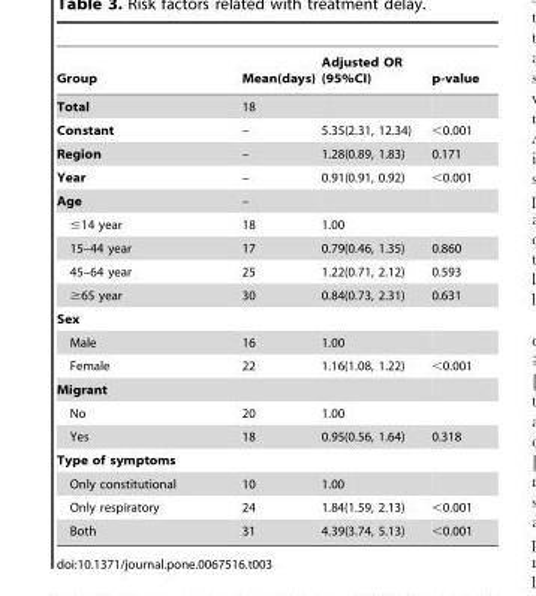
<table><thead><tr><td>Group</td><td>Mean(days)</td><td>Adjusted OR (95%CI)</td><td>p-value</td></tr></thead><tbody><tr><td>Total</td><td>18</td><td></td><td></td></tr><tr><td>Constant</td><td>–</td><td>5.35(2.31, 12.34)</td><td>&lt;0.001</td></tr><tr><td>Region</td><td>–</td><td>1.28(0.89, 1.83)</td><td>0.171</td></tr><tr><td>Year</td><td>–</td><td>0.91(0.91, 0.92)</td><td>&lt;0.001</td></tr><tr><td>Age</td><td>–</td><td></td><td></td></tr><tr><td>≤14 year</td><td>18</td><td>1.00</td><td></td></tr><tr><td>15–44 year</td><td>17</td><td>0.79(0.46, 1.35)</td><td>0.860</td></tr><tr><td>45–64 year</td><td>25</td><td>1.22(0.71, 2.12)</td><td>0.593</td></tr><tr><td>≥65 year</td><td>30</td><td>0.84(0.73, 2.31)</td><td>0.631</td></tr><tr><td colspan="4">Sex</td></tr><tr><td>Male</td><td>16</td><td>1.00</td><td></td></tr><tr><td>Female</td><td>22</td><td>1.16(1.08, 1.22)</td><td>&lt;0.001</td></tr><tr><td colspan="4">Migrant</td></tr><tr><td>No</td><td>20</td><td>1.00</td><td></td></tr><tr><td>Yes</td><td>18</td><td>0.95(0.56, 1.64)</td><td>0.318</td></tr><tr><td colspan="4">Type of symptoms</td></tr><tr><td>Only constitutional</td><td>10</td><td>1.00</td><td></td></tr><tr><td>Only respiratory</td><td>24</td><td>1.84(1.59, 2.13)</td><td>&lt;0.001</td></tr><tr><td>Both</td><td>31</td><td>4.39(3.74, 5.13)</td><td>&lt;0.001</td></tr></tbody></table>